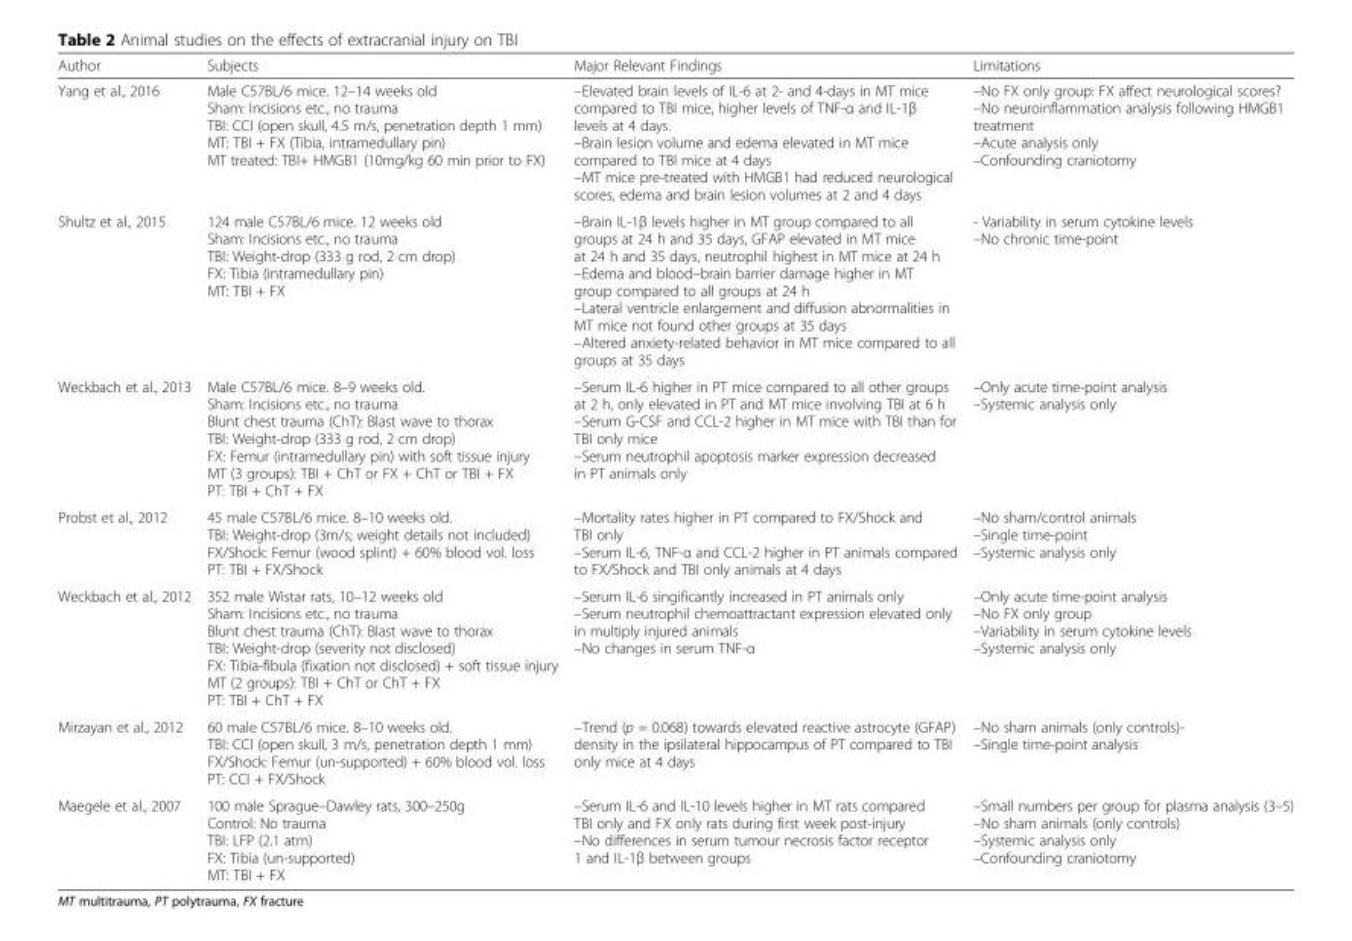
<table><thead><tr><td>Author</td><td>Subjects</td><td>Major Relevant Findings</td><td>Limitations</td></tr></thead><tbody><tr><td>Yang et al., 2016</td><td>Male C57BL/6 mice. 12–14 weeks old Sham: Incisions etc., no trauma TBI: CCI (open skull, 4.5 m/s, penetration depth 1 mm) MT: TBI + FX (Tibia, intramedullary pin) MT treated: TBI+ HMGB1 (10mg/kg 60 min prior to FX)</td><td>–Elevated brain levels of IL-6 at 2- and 4-days in MT mice compared to TBI mice, higher levels of TNF-α and IL-1β levels at 4 days. –Brain lesion volume and edema elevated in MT mice compared to TBI mice at 4 days –MT mice pre-treated with HMGB1 had reduced neurological scores, edema and brain lesion volumes at 2 and 4 days</td><td>–No FX only group: FX affect neurological scores? –No neuroinflammation analysis following HMGB1 treatment –Acute analysis only –Confounding craniotomy</td></tr><tr><td>Shultz et al., 2015</td><td>124 male C57BL/6 mice. 12 weeks old Sham: Incisions etc., no trauma TBI: Weight-drop (333 g rod, 2 cm drop) FX: Tibia (intramedullary pin) MT: TBI + FX</td><td>–Brain IL-1β levels higher in MT group compared to all groups at 24 h and 35 days, GFAP elevated in MT mice at 24 h and 35 days, neutrophil highest in MT mice at 24 h –Edema and blood–brain barrier damage higher in MT group compared to all groups at 24 h –Lateral ventricle enlargement and diffusion abnormalities in MT mice not found other groups at 35 days –Altered anxiety-related behavior in MT mice compared to all groups at 35 days</td><td>- Variability in serum cytokine levels –No chronic time-point</td></tr><tr><td>Weckbach et al., 2013</td><td>Male C57BL/6 mice. 8–9 weeks old. Sham: Incisions etc., no trauma Blunt chest trauma (ChT): Blast wave to thorax TBI: Weight-drop (333 g rod, 2 cm drop) FX: Femur (intramedullary pin) with soft tissue injury MT (3 groups): TBI + ChT or FX + ChT or TBI + FX PT: TBI + ChT + FX</td><td>–Serum IL-6 higher in PT mice compared to all other groups at 2 h, only elevated in PT and MT mice involving TBI at 6 h –Serum G-CSF and CCL-2 higher in MT mice with TBI than for TBI only mice –Serum neutrophil apoptosis marker expression decreased in PT animals only</td><td>–Only acute time-point analysis –Systemic analysis only</td></tr><tr><td>Probst et al., 2012</td><td>45 male C57BL/6 mice. 8–10 weeks old. TBI: Weight-drop (3m/s; weight details not included) FX/Shock: Femur (wood splint) + 60% blood vol. loss PT: TBI + FX/Shock</td><td>–Mortality rates higher in PT compared to FX/Shock and TBI only –Serum IL-6, TNF-α and CCL-2 higher in PT animals compared to FX/Shock and TBI only animals at 4 days</td><td>–No sham/control animals –Single time-point –Systemic analysis only</td></tr><tr><td>Weckbach et al., 2012</td><td>352 male Wistar rats, 10–12 weeks old Sham: Incisions etc., no trauma Blunt chest trauma (ChT): Blast wave to thorax TBI: Weight-drop (severity not disclosed) FX: Tibia-fibula (fixation not disclosed) + soft tissue injury MT (2 groups): TBI + ChT or ChT + FX PT: TBI + ChT + FX</td><td>–Serum IL-6 singificantly increased in PT animals only –Serum neutrophil chemoattractant expression elevated only in multiply injured animals –No changes in serum TNF-α</td><td>–Only acute time-point analysis –No FX only group –Variability in serum cytokine levels –Systemic analysis only</td></tr><tr><td>Mirzayan et al., 2012</td><td>60 male C57BL/6 mice. 8–10 weeks old. TBI: CCI (open skull, 3 m/s, penetration depth 1 mm) FX/Shock: Femur (un-supported) + 60% blood vol. loss PT: CCI + FX/Shock</td><td>–Trend (p = 0.068) towards elevated reactive astrocyte (GFAP) density in the ipsilateral hippocampus of PT compared to TBI only mice at 4 days</td><td>–No sham animals (only controls)- –Single time-point analysis</td></tr><tr><td>Maegele et al., 2007</td><td>100 male Sprague–Dawley rats, 300–250g Control: No trauma TBI: LFP (2.1 atm) FX: Tibia (un-supported) MT: TBI + FX</td><td>–Serum IL-6 and IL-10 levels higher in MT rats compared TBI only and FX only rats during first week post-injury –No differences in serum tumour necrosis factor receptor 1 and IL-1β between groups</td><td>–Small numbers per group for plasma analysis (3–5) –No sham animals (only controls) –Systemic analysis only –Confounding craniotomy</td></tr></tbody></table>